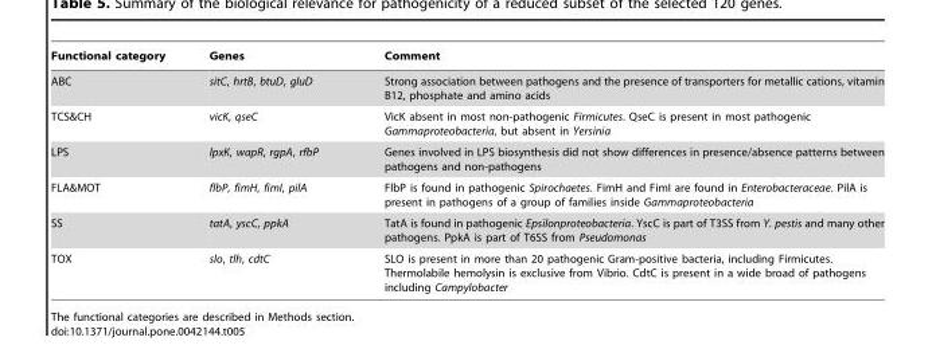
<table><thead><tr><td>Functional category</td><td>Genes</td><td>Comment</td></tr></thead><tbody><tr><td>ABC</td><td>sitC, hrtB, btuD, gluD</td><td>Strong association between pathogens and the presence of transporters for metallic cations, vitamin B12, phosphate and amino acids</td></tr><tr><td>TCS&amp;CH</td><td>vicK, qseC</td><td>VicK absent in most non-pathogenic Firmicutes. QseC is present in most pathogenic Gammaproteobacteria, but absent in Yersinia</td></tr><tr><td>LPS</td><td>lpxK, wapR, rgpA, rfbP</td><td>Genes involved in LPS biosynthesis did not show differences in presence/absence patterns between pathogens and non-pathogens</td></tr><tr><td>FLA&amp;MOT</td><td>flbP, fimH, fimI, pilA</td><td>FlbP is found in pathogenic Spirochaetes. FimH and FimI are found in Enterobacteraceae. PilA is present in pathogens of a group of families inside Gammaproteobacteria</td></tr><tr><td>SS</td><td>tatA, yscC, ppkA</td><td>TatA is found in pathogenic Epsilonproteobacteria. YscC is part of T3SS from Y. pestis and many other pathogens. PpkA is part of T6SS from Pseudomonas</td></tr><tr><td>TOX</td><td>slo, tlh, cdtC</td><td>SLO is present in more than 20 pathogenic Gram-positive bacteria, including Firmicutes. Thermolabile hemolysin is exclusive from Vibrio. CdtC is present in a wide broad of pathogens including Campylobacter</td></tr></tbody></table>